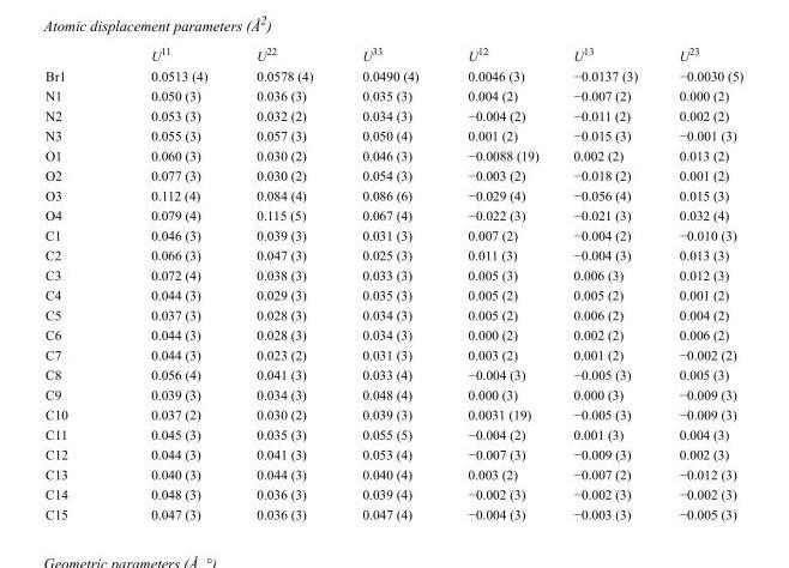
<table><thead><tr><td></td><td>U<sup>11</sup></td><td>U<sup>22</sup></td><td>U<sup>33</sup></td><td>U<sup>12</sup></td><td>U<sup>13</sup></td><td>U<sup>23</sup></td></tr></thead><tbody><tr><td>Br1</td><td>0.0513 (4)</td><td>0.0578 (4)</td><td>0.0490 (4)</td><td>0.0046 (3)</td><td>−0.0137 (3)</td><td>−0.0030 (5)</td></tr><tr><td>N1</td><td>0.050 (3)</td><td>0.036 (3)</td><td>0.035 (3)</td><td>0.004 (2)</td><td>−0.007 (2)</td><td>0.000 (2)</td></tr><tr><td>N2</td><td>0.053 (3)</td><td>0.032 (2)</td><td>0.034 (3)</td><td>−0.004 (2)</td><td>−0.011 (2)</td><td>0.002 (2)</td></tr><tr><td>N3</td><td>0.055 (3)</td><td>0.057 (3)</td><td>0.050 (4)</td><td>0.001 (2)</td><td>−0.015 (3)</td><td>−0.001 (3)</td></tr><tr><td>O1</td><td>0.060 (3)</td><td>0.030 (2)</td><td>0.046 (3)</td><td>−0.0088 (19)</td><td>0.002 (2)</td><td>0.013 (2)</td></tr><tr><td>O2</td><td>0.077 (3)</td><td>0.030 (2)</td><td>0.054 (3)</td><td>−0.003 (2)</td><td>−0.018 (2)</td><td>0.001 (2)</td></tr><tr><td>O3</td><td>0.112 (4)</td><td>0.084 (4)</td><td>0.086 (6)</td><td>−0.029 (4)</td><td>−0.056 (4)</td><td>0.015 (3)</td></tr><tr><td>O4</td><td>0.079 (4)</td><td>0.115 (5)</td><td>0.067 (4)</td><td>−0.022 (3)</td><td>−0.021 (3)</td><td>0.032 (4)</td></tr><tr><td>C1</td><td>0.046 (3)</td><td>0.039 (3)</td><td>0.031 (3)</td><td>0.007 (2)</td><td>−0.004 (2)</td><td>−0.010 (3)</td></tr><tr><td>C2</td><td>0.066 (3)</td><td>0.047 (3)</td><td>0.025 (3)</td><td>0.011 (3)</td><td>−0.004 (3)</td><td>0.013 (3)</td></tr><tr><td>C3</td><td>0.072 (4)</td><td>0.038 (3)</td><td>0.033 (3)</td><td>0.005 (3)</td><td>0.006 (3)</td><td>0.012 (3)</td></tr><tr><td>C4</td><td>0.044 (3)</td><td>0.029 (3)</td><td>0.035 (3)</td><td>0.005 (2)</td><td>0.005 (2)</td><td>0.001 (2)</td></tr><tr><td>C5</td><td>0.037 (3)</td><td>0.028 (3)</td><td>0.034 (3)</td><td>0.005 (2)</td><td>0.006 (2)</td><td>0.004 (2)</td></tr><tr><td>C6</td><td>0.044 (3)</td><td>0.028 (3)</td><td>0.034 (3)</td><td>0.000 (2)</td><td>0.002 (2)</td><td>0.006 (2)</td></tr><tr><td>C7</td><td>0.044 (3)</td><td>0.023 (2)</td><td>0.031 (3)</td><td>0.003 (2)</td><td>0.001 (2)</td><td>−0.002 (2)</td></tr><tr><td>C8</td><td>0.056 (4)</td><td>0.041 (3)</td><td>0.033 (4)</td><td>−0.004 (3)</td><td>−0.005 (3)</td><td>0.005 (3)</td></tr><tr><td>C9</td><td>0.039 (3)</td><td>0.034 (3)</td><td>0.048 (4)</td><td>0.000 (3)</td><td>0.000 (3)</td><td>−0.009 (3)</td></tr><tr><td>C10</td><td>0.037 (2)</td><td>0.030 (2)</td><td>0.039 (3)</td><td>0.0031 (19)</td><td>−0.005 (3)</td><td>−0.009 (3)</td></tr><tr><td>C11</td><td>0.045 (3)</td><td>0.035 (3)</td><td>0.055 (5)</td><td>−0.004 (2)</td><td>0.001 (3)</td><td>0.004 (3)</td></tr><tr><td>C12</td><td>0.044 (3)</td><td>0.041 (3)</td><td>0.053 (4)</td><td>−0.007 (3)</td><td>−0.009 (3)</td><td>0.002 (3)</td></tr><tr><td>C13</td><td>0.040 (3)</td><td>0.044 (3)</td><td>0.040 (4)</td><td>0.003 (2)</td><td>−0.007 (2)</td><td>−0.012 (3)</td></tr><tr><td>C14</td><td>0.048 (3)</td><td>0.036 (3)</td><td>0.039 (4)</td><td>−0.002 (3)</td><td>−0.002 (3)</td><td>−0.002 (3)</td></tr><tr><td>C15</td><td>0.047 (3)</td><td>0.036 (3)</td><td>0.047 (4)</td><td>−0.004 (3)</td><td>−0.003 (3)</td><td>−0.005 (3)</td></tr></tbody></table>